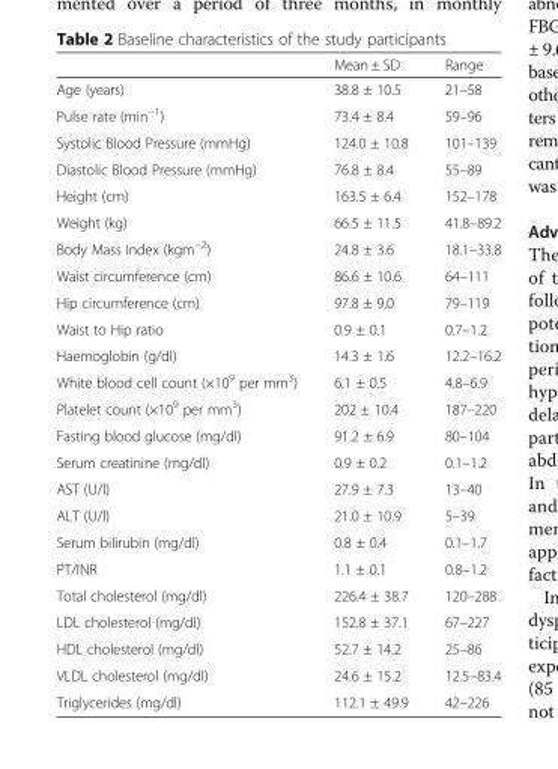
<table><thead><tr><td></td><td>Mean ± SD</td><td>Range</td></tr></thead><tbody><tr><td>Age (years)</td><td>38.8 ± 10.5</td><td>21–58</td></tr><tr><td>Pulse rate (min<sup>−1</sup>)</td><td>73.4 ± 8.4</td><td>59–96</td></tr><tr><td>Systolic Blood Pressure (mmHg)</td><td>124.0 ± 10.8</td><td>101–139</td></tr><tr><td>Diastolic Blood Pressure (mmHg)</td><td>76.8 ± 8.4</td><td>55–89</td></tr><tr><td>Height (cm)</td><td>163.5 ± 6.4</td><td>152–178</td></tr><tr><td>Weight (kg)</td><td>66.5 ± 11.5</td><td>41.8–89.2</td></tr><tr><td>Body Mass Index (kgm<sup>−2</sup>)</td><td>24.8 ± 3.6</td><td>18.1–33.8</td></tr><tr><td>Waist circumference (cm)</td><td>86.6 ± 10.6</td><td>64–111</td></tr><tr><td>Hip circumference (cm)</td><td>97.8 ± 9.0</td><td>79–119</td></tr><tr><td>Waist to Hip ratio</td><td>0.9 ± 0.1</td><td>0.7–1.2</td></tr><tr><td>Haemoglobin (g/dl)</td><td>14.3 ± 1.6</td><td>12.2–16.2</td></tr><tr><td>White blood cell count (×10<sup>9</sup> per mm<sup>3</sup>)</td><td>6.1 ± 0.5</td><td>4.8–6.9</td></tr><tr><td>Platelet count (×10<sup>9</sup> per mm<sup>3</sup>)</td><td>202 ± 10.4</td><td>187–220</td></tr><tr><td>Fasting blood glucose (mg/dl)</td><td>91.2 ± 6.9</td><td>80–104</td></tr><tr><td>Serum creatinine (mg/dl)</td><td>0.9 ± 0.2</td><td>0.1–1.2</td></tr><tr><td>AST (U/l)</td><td>27.9 ± 7.3</td><td>13–40</td></tr><tr><td>ALT (U/l)</td><td>21.0 ± 10.9</td><td>5–39</td></tr><tr><td>Serum bilirubin (mg/dl)</td><td>0.8 ± 0.4</td><td>0.1–1.7</td></tr><tr><td>PT/INR</td><td>1.1 ± 0.1</td><td>0.8–1.2</td></tr><tr><td>Total cholesterol (mg/dl)</td><td>226.4 ± 38.7</td><td>120–288</td></tr><tr><td>LDL cholesterol (mg/dl)</td><td>152.8 ± 37.1</td><td>67–227</td></tr><tr><td>HDL cholesterol (mg/dl)</td><td>52.7 ± 14.2</td><td>25–86</td></tr><tr><td>VLDL cholesterol (mg/dl)</td><td>24.6 ± 15.2</td><td>12.5–83.4</td></tr><tr><td>Triglycerides (mg/dl)</td><td>112.1 ± 49.9</td><td>42–226</td></tr></tbody></table>